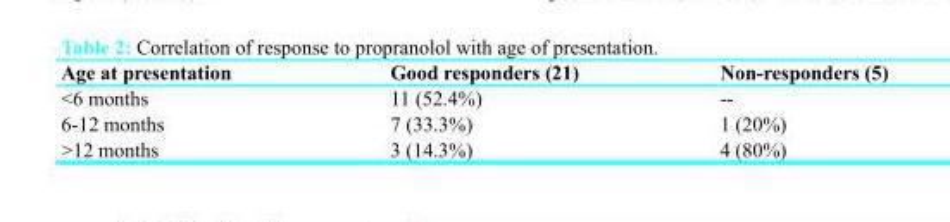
<table><thead><tr><td>Age at presentation</td><td>Good responders (21)</td><td>Non-responders (5)</td></tr></thead><tbody><tr><td>&lt;6 months</td><td>11 (52.4%)</td><td>--</td></tr><tr><td>6-12 months</td><td>7 (33.3%)</td><td>1 (20%)</td></tr><tr><td>&gt;12 months</td><td>3 (14.3%)</td><td>4 (80%)</td></tr></tbody></table>